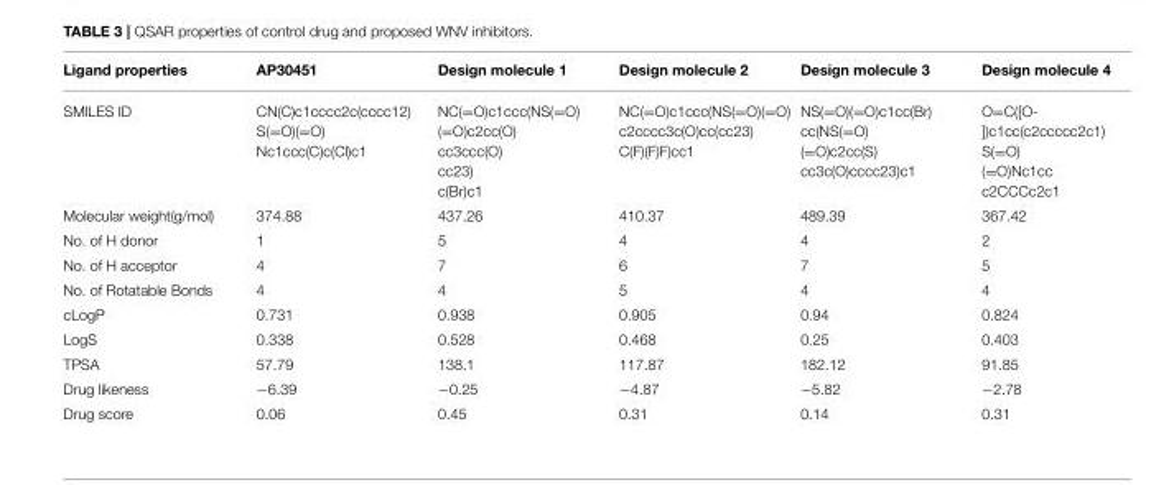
<table><thead><tr><td>Ligand properties</td><td>AP30451</td><td>Design molecule 1</td><td>Design molecule 2</td><td>Design molecule 3</td><td>Design molecule 4</td></tr></thead><tbody><tr><td>SMILES ID</td><td>CN(C)c1cccc2c(cccc12) S(=O)(=O) Nc1ccc(C)c(Cl)c1</td><td>NC(=O)c1ccc(NS(=O) (=O)c2cc(O) cc3ccc(O) cc23) c(Br)c1</td><td>NC(=O)c1ccc(NS(=O)(=O) c2cccc3c(O)cc(cc23) C(F)(F)F)cc1</td><td>NS(=O)(=O)c1cc(Br) cc(NS(=O) (=O)c2cc(S) cc3c(O)cccc23)c1</td><td>O=C([O- ])c1cc(c2ccccc2c1) S(=O) (=O)Nc1cc c2CCCc2c1</td></tr><tr><td>Molecular weight(g/mol)</td><td>374.88</td><td>437.26</td><td>410.37</td><td>489.39</td><td>367.42</td></tr><tr><td>No. of H donor</td><td>1</td><td>5</td><td>4</td><td>4</td><td>2</td></tr><tr><td>No. of H acceptor</td><td>4</td><td>7</td><td>6</td><td>7</td><td>5</td></tr><tr><td>No. of Rotatable Bonds</td><td>4</td><td>4</td><td>5</td><td>4</td><td>4</td></tr><tr><td>cLogP</td><td>0.731</td><td>0.938</td><td>0.905</td><td>0.94</td><td>0.824</td></tr><tr><td>LogS</td><td>0.338</td><td>0.528</td><td>0.468</td><td>0.25</td><td>0.403</td></tr><tr><td>TPSA</td><td>57.79</td><td>138.1</td><td>117.87</td><td>182.12</td><td>91.85</td></tr><tr><td>Drug likeness</td><td>−6.39</td><td>−0.25</td><td>−4.87</td><td>−5.82</td><td>−2.78</td></tr><tr><td>Drug score</td><td>0.06</td><td>0.45</td><td>0.31</td><td>0.14</td><td>0.31</td></tr></tbody></table>